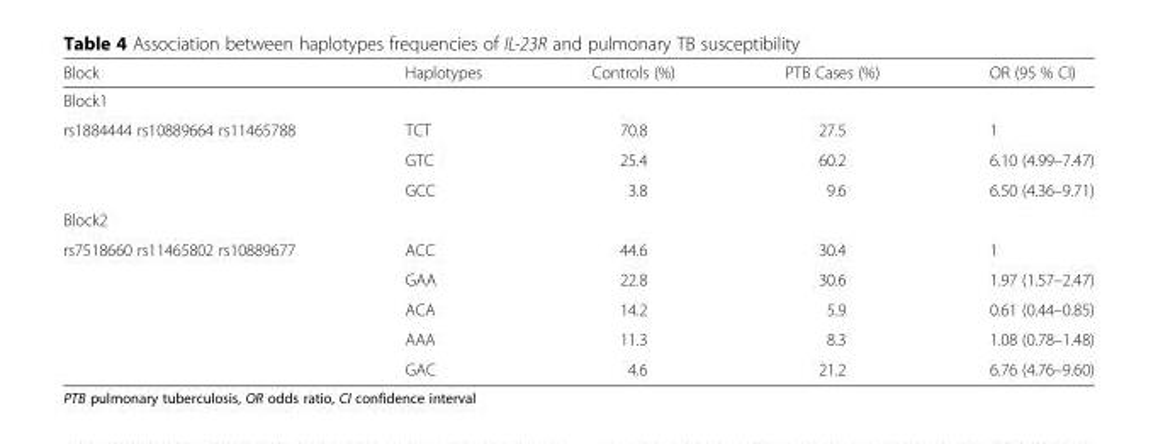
<table><thead><tr><td>Block</td><td>Haplotypes</td><td>Controls (%)</td><td>PTB Cases (%)</td><td>OR (95 % CI)</td></tr></thead><tbody><tr><td colspan="5">Block1</td></tr><tr><td rowspan="3">rs1884444 rs10889664 rs11465788</td><td>TCT</td><td>70.8</td><td>27.5</td><td>1</td></tr><tr><td>GTC</td><td>25.4</td><td>60.2</td><td>6.10 (4.99–7.47)</td></tr><tr><td>GCC</td><td>3.8</td><td>9.6</td><td>6.50 (4.36–9.71)</td></tr><tr><td colspan="5">Block2</td></tr><tr><td rowspan="5">rs7518660 rs11465802 rs10889677</td><td>ACC</td><td>44.6</td><td>30.4</td><td>1</td></tr><tr><td>GAA</td><td>22.8</td><td>30.6</td><td>1.97 (1.57–2.47)</td></tr><tr><td>ACA</td><td>14.2</td><td>5.9</td><td>0.61 (0.44–0.85)</td></tr><tr><td>AAA</td><td>11.3</td><td>8.3</td><td>1.08 (0.78–1.48)</td></tr><tr><td>GAC</td><td>4.6</td><td>21.2</td><td>6.76 (4.76–9.60)</td></tr></tbody></table>